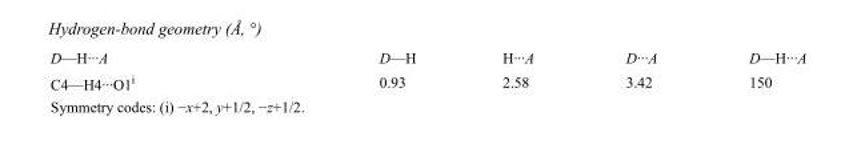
<table><tbody><tr><td>D—H···A</td><td>D—H</td><td>H···A</td><td>D···A</td><td>D—H···A</td></tr><tr><td>C4—H4···O1<sup>i</sup></td><td>0.93</td><td>2.58</td><td>3.42</td><td>150</td></tr></tbody></table>